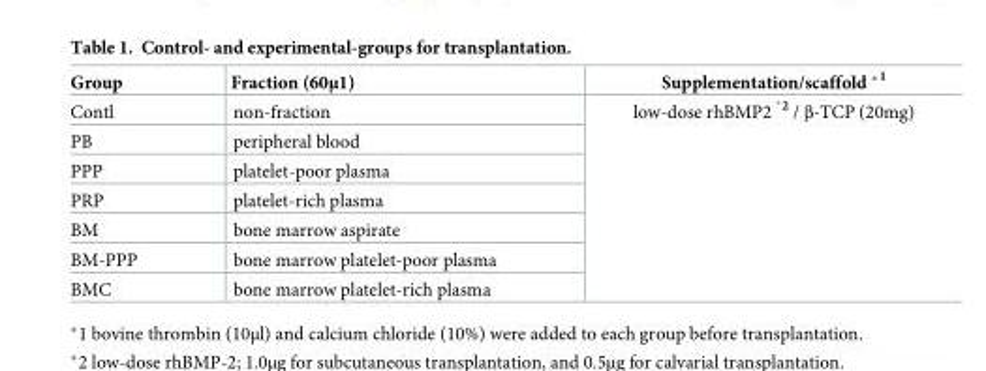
<table><thead><tr><td>Group</td><td>Fraction (60μ1)</td><td>Supplementation/scaffold *<sup>1</sup></td></tr></thead><tbody><tr><td>Contl</td><td>non-fraction</td><td rowspan="7">low-dose rhBMP2 <sup>*2</sup> / β-TCP (20mg)</td></tr><tr><td>PB</td><td>peripheral blood</td></tr><tr><td>PPP</td><td>platelet-poor plasma</td></tr><tr><td>PRP</td><td>platelet-rich plasma</td></tr><tr><td>BM</td><td>bone marrow aspirate</td></tr><tr><td>BM-PPP</td><td>bone marrow platelet-poor plasma</td></tr><tr><td>BMC</td><td>bone marrow platelet-rich plasma</td></tr></tbody></table>